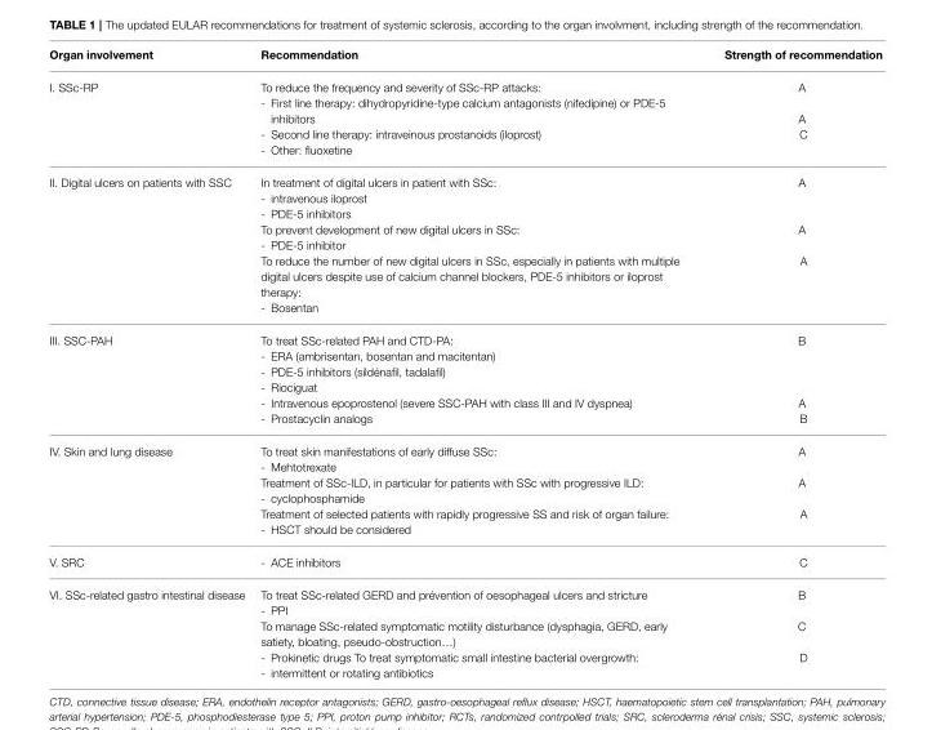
<table><thead><tr><td>Organ involvement</td><td>Recommendation</td><td>Strength of recommendation</td></tr></thead><tbody><tr><td>I. SSc-RP</td><td>To reduce the frequency and severity of SSc-RP attacks: - First line therapy: dihydropyridine-type calcium antagonists (nifedipine) or PDE-5 inhibitors - Second line therapy: intraveinous prostanoids (iloprost) - Other: fluoxetine</td><td>A A C</td></tr><tr><td>II. Digital ulcers on patients with SSC</td><td>In treatment of digital ulcers in patient with SSc: - intravenous iloprost - PDE-5 inhibitors To prevent development of new digital ulcers in SSc: - PDE-5 inhibitor To reduce the number of new digital ulcers in SSc, especially in patients with multiple digital ulcers despite use of calcium channel blockers, PDE-5 inhibitors or iloprost therapy: - Bosentan</td><td>A A A</td></tr><tr><td>III. SSC-PAH</td><td>To treat SSc-related PAH and CTD-PA: - ERA (ambrisentan, bosentan and macitentan) - PDE-5 inhibitors (sildénafil, tadalafil) - Riociguat - Intravenous epoprostenol (severe SSC-PAH with class III and IV dyspnea) - Prostacyclin analogs</td><td>B A B</td></tr><tr><td>IV. Skin and lung disease</td><td>To treat skin manifestations of early diffuse SSc: - Mehtotrexate Treatment of SSc-ILD, in particular for patients with SSc with progressive ILD: - cyclophosphamide Treatment of selected patients with rapidly progressive SS and risk of organ failure: - HSCT should be considered</td><td>A A A</td></tr><tr><td>V. SRC</td><td>- ACE inhibitors</td><td>C</td></tr><tr><td>VI. SSc-related gastro intestinal disease</td><td>To treat SSc-related GERD and prévention of oesophageal ulcers and stricture - PPI To manage SSc-related symptomatic motility disturbance (dysphagia, GERD, early satiety, bloating, pseudo-obstruction…) - Prokinetic drugs To treat symptomatic small intestine bacterial overgrowth: - intermittent or rotating antibiotics</td><td>B C D</td></tr></tbody></table>